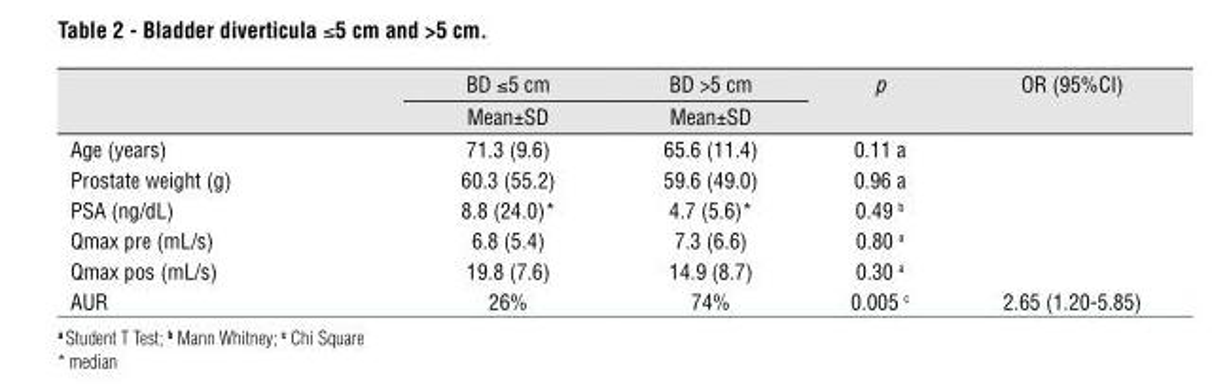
<table><thead><tr><td rowspan="2"></td><td rowspan="2">BD ≤5 cm Mean±SD</td><td rowspan="2">BD &gt;5 cm Mean±SD</td><td rowspan="2">p</td><td rowspan="2">OR (95%CI)</td></tr><tr></tr></thead><tbody><tr><td>Age (years)</td><td>71.3 (9.6)</td><td>65.6 (11.4)</td><td>0.11 a</td><td></td></tr><tr><td>Prostate weight (g)</td><td>60.3 (55.2)</td><td>59.6 (49.0)</td><td>0.96 a</td><td></td></tr><tr><td>PSA (ng/dL)</td><td>8.8 (24.0)*</td><td>4.7 (5.6)*</td><td>0.49 b</td><td></td></tr><tr><td>Qmax pre (mL/s)</td><td>6.8 (5.4)</td><td>7.3 (6.6)</td><td>0.80 a</td><td></td></tr><tr><td>Qmax pos (mL/s)</td><td>19.8 (7.6)</td><td>14.9 (8.7)</td><td>0.30 a</td><td></td></tr><tr><td>AUR</td><td>26%</td><td>74%</td><td>0.005 c</td><td>2.65 (1.20-5.85)</td></tr></tbody></table>